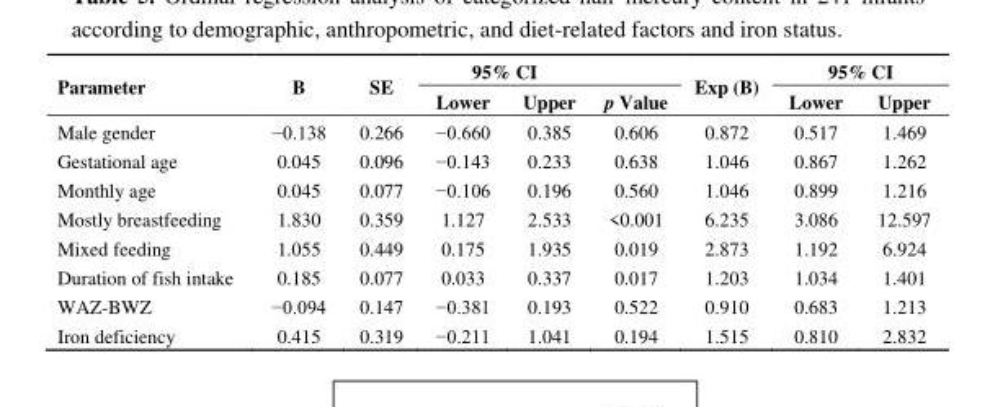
<table><thead><tr><td rowspan="2">Parameter</td><td rowspan="2">B</td><td rowspan="2">SE</td><td colspan="2">95% CI</td><td rowspan="2">p Value</td><td rowspan="2">Exp (B)</td><td colspan="2">95% CI</td></tr><tr><td>Lower</td><td>Upper</td><td>Lower</td><td>Upper</td></tr></thead><tbody><tr><td>Male gender</td><td>−0.138</td><td>0.266</td><td>−0.660</td><td>0.385</td><td>0.606</td><td>0.872</td><td>0.517</td><td>1.469</td></tr><tr><td>Gestational age</td><td>0.045</td><td>0.096</td><td>−0.143</td><td>0.233</td><td>0.638</td><td>1.046</td><td>0.867</td><td>1.262</td></tr><tr><td>Monthly age</td><td>0.045</td><td>0.077</td><td>−0.106</td><td>0.196</td><td>0.560</td><td>1.046</td><td>0.899</td><td>1.216</td></tr><tr><td>Mostly breastfeeding</td><td>1.830</td><td>0.359</td><td>1.127</td><td>2.533</td><td>&lt;0.001</td><td>6.235</td><td>3.086</td><td>12.597</td></tr><tr><td>Mixed feeding</td><td>1.055</td><td>0.449</td><td>0.175</td><td>1.935</td><td>0.019</td><td>2.873</td><td>1.192</td><td>6.924</td></tr><tr><td>Duration of fish intake</td><td>0.185</td><td>0.077</td><td>0.033</td><td>0.337</td><td>0.017</td><td>1.203</td><td>1.034</td><td>1.401</td></tr><tr><td>WAZ-BWZ</td><td>−0.094</td><td>0.147</td><td>−0.381</td><td>0.193</td><td>0.522</td><td>0.910</td><td>0.683</td><td>1.213</td></tr><tr><td>Iron deficiency</td><td>0.415</td><td>0.319</td><td>−0.211</td><td>1.041</td><td>0.194</td><td>1.515</td><td>0.810</td><td>2.832</td></tr></tbody></table>